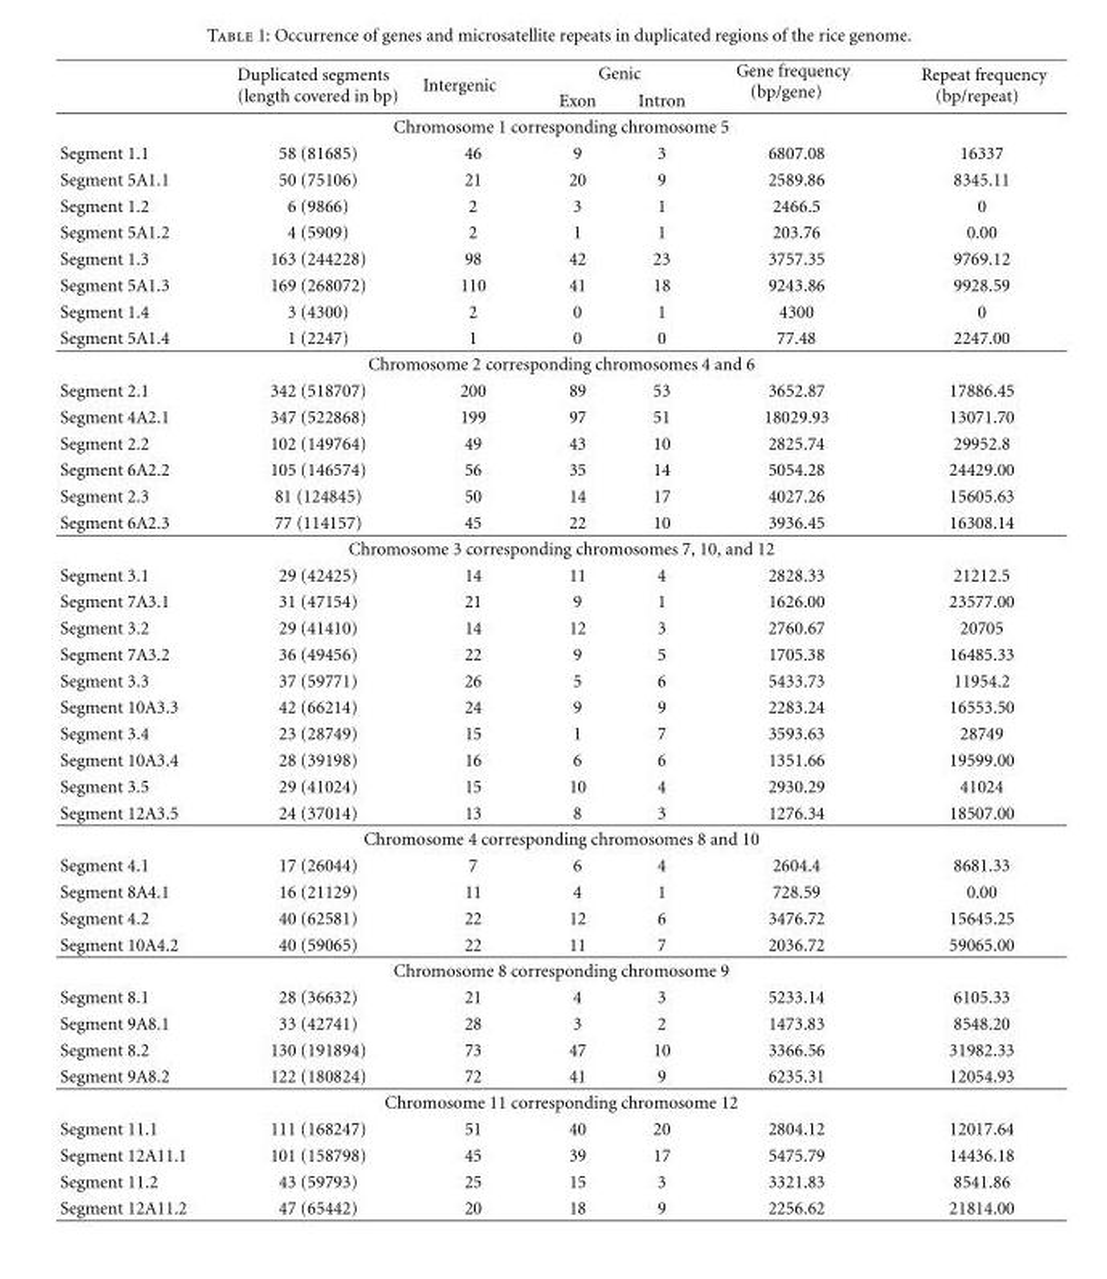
<table><thead><tr><td rowspan="2"></td><td rowspan="2">Duplicated segments (length covered in bp)</td><td rowspan="2">Intergenic</td><td colspan="2">Genic</td><td rowspan="2">Gene frequency (bp/gene)</td><td rowspan="2">Repeat frequency (bp/repeat)</td></tr><tr><td>Exon</td><td>Intron</td></tr></thead><tbody><tr><td colspan="7">Chromosome 1 corresponding chromosome 5</td></tr><tr><td>Segment 1.1</td><td>58 (81685)</td><td>46</td><td>9</td><td>3</td><td>6807.08</td><td>16337</td></tr><tr><td>Segment 5A1.1</td><td>50 (75106)</td><td>21</td><td>20</td><td>9</td><td>2589.86</td><td>8345.11</td></tr><tr><td>Segment 1.2</td><td>6 (9866)</td><td>2</td><td>3</td><td>1</td><td>2466.5</td><td>0</td></tr><tr><td>Segment 5A1.2</td><td>4 (5909)</td><td>2</td><td>1</td><td>1</td><td>203.76</td><td>0.00</td></tr><tr><td>Segment 1.3</td><td>163 (244228)</td><td>98</td><td>42</td><td>23</td><td>3757.35</td><td>9769.12</td></tr><tr><td>Segment 5A1.3</td><td>169 (268072)</td><td>110</td><td>41</td><td>18</td><td>9243.86</td><td>9928.59</td></tr><tr><td>Segment 1.4</td><td>3 (4300)</td><td>2</td><td>0</td><td>1</td><td>4300</td><td>0</td></tr><tr><td>Segment 5A1.4</td><td>1 (2247)</td><td>1</td><td>0</td><td>0</td><td>77.48</td><td>2247.00</td></tr><tr><td colspan="7">Chromosome 2 corresponding chromosomes 4 and 6</td></tr><tr><td>Segment 2.1</td><td>342 (518707)</td><td>200</td><td>89</td><td>53</td><td>3652.87</td><td>17886.45</td></tr><tr><td>Segment 4A2.1</td><td>347 (522868)</td><td>199</td><td>97</td><td>51</td><td>18029.93</td><td>13071.70</td></tr><tr><td>Segment 2.2</td><td>102 (149764)</td><td>49</td><td>43</td><td>10</td><td>2825.74</td><td>29952.8</td></tr><tr><td>Segment 6A2.2</td><td>105 (146574)</td><td>56</td><td>35</td><td>14</td><td>5054.28</td><td>24429.00</td></tr><tr><td>Segment 2.3</td><td>81 (124845)</td><td>50</td><td>14</td><td>17</td><td>4027.26</td><td>15605.63</td></tr><tr><td>Segment 6A2.3</td><td>77 (114157)</td><td>45</td><td>22</td><td>10</td><td>3936.45</td><td>16308.14</td></tr><tr><td colspan="7">Chromosome 3 corresponding chromosomes 7, 10, and 12</td></tr><tr><td>Segment 3.1</td><td>29 (42425)</td><td>14</td><td>11</td><td>4</td><td>2828.33</td><td>21212.5</td></tr><tr><td>Segment 7A3.1</td><td>31 (47154)</td><td>21</td><td>9</td><td>1</td><td>1626.00</td><td>23577.00</td></tr><tr><td>Segment 3.2</td><td>29 (41410)</td><td>14</td><td>12</td><td>3</td><td>2760.67</td><td>20705</td></tr><tr><td>Segment 7A3.2</td><td>36 (49456)</td><td>22</td><td>9</td><td>5</td><td>1705.38</td><td>16485.33</td></tr><tr><td>Segment 3.3</td><td>37 (59771)</td><td>26</td><td>5</td><td>6</td><td>5433.73</td><td>11954.2</td></tr><tr><td>Segment 10A3.3</td><td>42 (66214)</td><td>24</td><td>9</td><td>9</td><td>2283.24</td><td>16553.50</td></tr><tr><td>Segment 3.4</td><td>23 (28749)</td><td>15</td><td>1</td><td>7</td><td>3593.63</td><td>28749</td></tr><tr><td>Segment 10A3.4</td><td>28 (39198)</td><td>16</td><td>6</td><td>6</td><td>1351.66</td><td>19599.00</td></tr><tr><td>Segment 3.5</td><td>29 (41024)</td><td>15</td><td>10</td><td>4</td><td>2930.29</td><td>41024</td></tr><tr><td>Segment 12A3.5</td><td>24 (37014)</td><td>13</td><td>8</td><td>3</td><td>1276.34</td><td>18507.00</td></tr><tr><td colspan="7">Chromosome 4 corresponding chromosomes 8 and 10</td></tr><tr><td>Segment 4.1</td><td>17 (26044)</td><td>7</td><td>6</td><td>4</td><td>2604.4</td><td>8681.33</td></tr><tr><td>Segment 8A4.1</td><td>16 (21129)</td><td>11</td><td>4</td><td>1</td><td>728.59</td><td>0.00</td></tr><tr><td>Segment 4.2</td><td>40 (62581)</td><td>22</td><td>12</td><td>6</td><td>3476.72</td><td>15645.25</td></tr><tr><td>Segment 10A4.2</td><td>40 (59065)</td><td>22</td><td>11</td><td>7</td><td>2036.72</td><td>59065.00</td></tr><tr><td colspan="7">Chromosome 8 corresponding chromosome 9</td></tr><tr><td>Segment 8.1</td><td>28 (36632)</td><td>21</td><td>4</td><td>3</td><td>5233.14</td><td>6105.33</td></tr><tr><td>Segment 9A8.1</td><td>33 (42741)</td><td>28</td><td>3</td><td>2</td><td>1473.83</td><td>8548.20</td></tr><tr><td>Segment 8.2</td><td>130 (191894)</td><td>73</td><td>47</td><td>10</td><td>3366.56</td><td>31982.33</td></tr><tr><td>Segment 9A8.2</td><td>122 (180824)</td><td>72</td><td>41</td><td>9</td><td>6235.31</td><td>12054.93</td></tr><tr><td colspan="7">Chromosome 11 corresponding chromosome 12</td></tr><tr><td>Segment 11.1</td><td>111 (168247)</td><td>51</td><td>40</td><td>20</td><td>2804.12</td><td>12017.64</td></tr><tr><td>Segment 12A11.1</td><td>101 (158798)</td><td>45</td><td>39</td><td>17</td><td>5475.79</td><td>14436.18</td></tr><tr><td>Segment 11.2</td><td>43 (59793)</td><td>25</td><td>15</td><td>3</td><td>3321.83</td><td>8541.86</td></tr><tr><td>Segment 12A11.2</td><td>47 (65442)</td><td>20</td><td>18</td><td>9</td><td>2256.62</td><td>21814.00</td></tr></tbody></table>